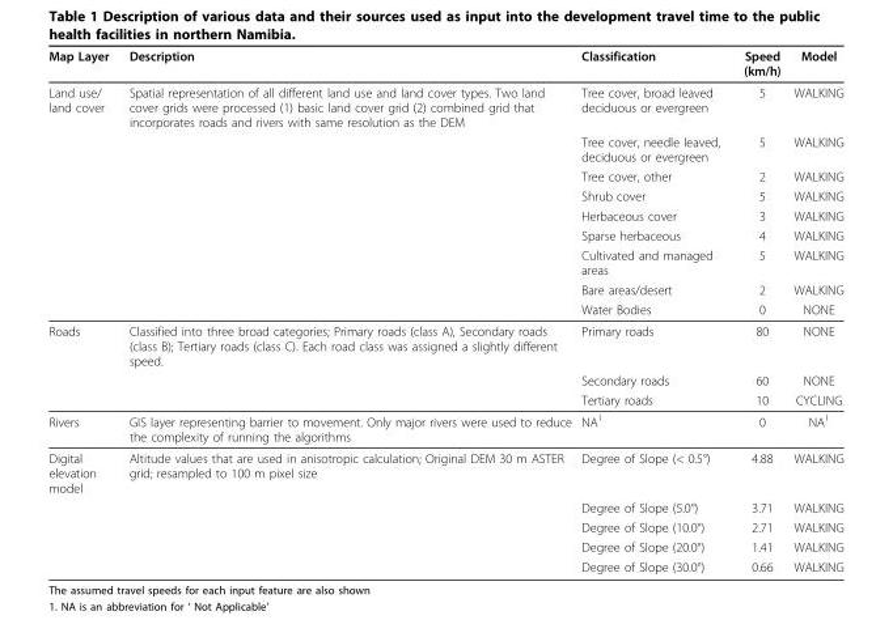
<table><thead><tr><td>Map Layer</td><td>Description</td><td>Classification</td><td>Speed (km/h)</td><td>Model</td></tr></thead><tbody><tr><td rowspan="9">Land use/ land cover</td><td>Spatial representation of all different land use and land cover types. Two land cover grids were processed (1) basic land cover grid (2) combined grid that incorporates roads and rivers with same resolution as the DEM</td><td>Tree cover, broad leaved deciduous or evergreen</td><td>5</td><td>WALKING</td></tr><tr><td></td><td>Tree cover, needle leaved, deciduous or evergreen</td><td>5</td><td>WALKING</td></tr><tr><td></td><td>Tree cover, other</td><td>2</td><td>WALKING</td></tr><tr><td></td><td>Shrub cover</td><td>5</td><td>WALKING</td></tr><tr><td></td><td>Herbaceous cover</td><td>3</td><td>WALKING</td></tr><tr><td></td><td>Sparse herbaceous</td><td>4</td><td>WALKING</td></tr><tr><td></td><td>Cultivated and managed areas</td><td>5</td><td>WALKING</td></tr><tr><td></td><td>Bare areas/desert</td><td>2</td><td>WALKING</td></tr><tr><td></td><td>Water Bodies</td><td>0</td><td>NONE</td></tr><tr><td rowspan="3">Roads</td><td>Classified into three broad categories; Primary roads (class A), Secondary roads (class B); Tertiary roads (class C). Each road class was assigned a slightly different speed.</td><td>Primary roads</td><td>80</td><td>NONE</td></tr><tr><td></td><td>Secondary roads</td><td>60</td><td>NONE</td></tr><tr><td></td><td>Tertiary roads</td><td>10</td><td>CYCLING</td></tr><tr><td>Rivers</td><td>GIS layer representing barrier to movement. Only major rivers were used to reduce the complexity of running the algorithms</td><td>NA<sup>1</sup></td><td>0</td><td>NA<sup>1</sup></td></tr><tr><td rowspan="5">Digital elevation model</td><td>Altitude values that are used in anisotropic calculation; Original DEM 30 m ASTER grid; resampled to 100 m pixel size</td><td>Degree of Slope (&lt; 0.5°)</td><td>4.88</td><td>WALKING</td></tr><tr><td></td><td>Degree of Slope (5.0°)</td><td>3.71</td><td>WALKING</td></tr><tr><td></td><td>Degree of Slope (10.0°)</td><td>2.71</td><td>WALKING</td></tr><tr><td></td><td>Degree of Slope (20.0°)</td><td>1.41</td><td>WALKING</td></tr><tr><td></td><td>Degree of Slope (30.0°)</td><td>0.66</td><td>WALKING</td></tr></tbody></table>